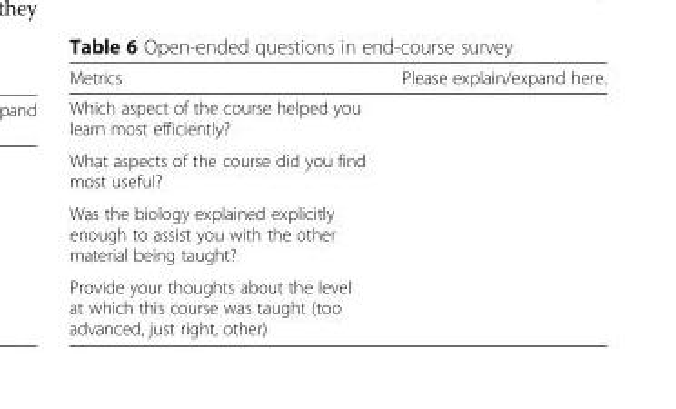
<table><thead><tr><td>Metrics</td><td>Please explain/expand here.</td></tr></thead><tbody><tr><td colspan="2">Which aspect of the course helped you learn most efficiently?</td></tr><tr><td colspan="2">What aspects of the course did you find most useful?</td></tr><tr><td colspan="2">Was the biology explained explicitly enough to assist you with the other material being taught?</td></tr><tr><td>Provide your thoughts about the level at which this course was taught (too advanced, just right, other)</td><td></td></tr></tbody></table>